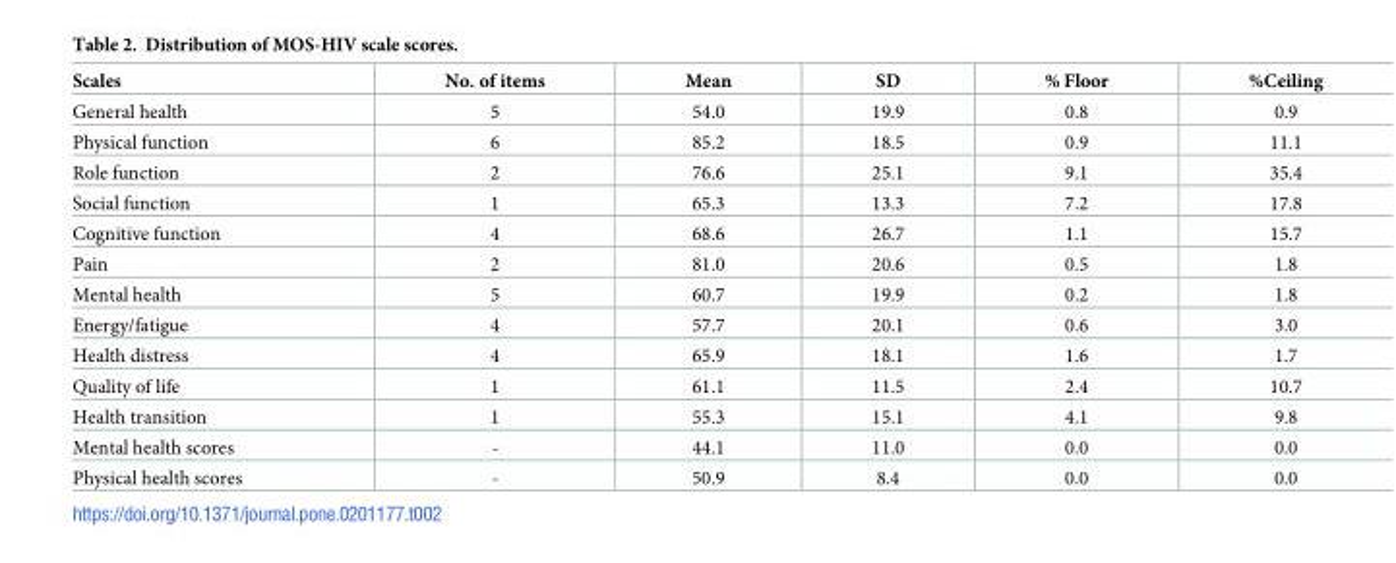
<table><thead><tr><td>Scales</td><td>No. of items</td><td>Mean</td><td>SD</td><td>% Floor</td><td>%Ceiling</td></tr></thead><tbody><tr><td>General health</td><td>5</td><td>54.0</td><td>19.9</td><td>0.8</td><td>0.9</td></tr><tr><td>Physical function</td><td>6</td><td>85.2</td><td>18.5</td><td>0.9</td><td>11.1</td></tr><tr><td>Role function</td><td>2</td><td>76.6</td><td>25.1</td><td>9.1</td><td>35.4</td></tr><tr><td>Social function</td><td>1</td><td>65.3</td><td>13.3</td><td>7.2</td><td>17.8</td></tr><tr><td>Cognitive function</td><td>4</td><td>68.6</td><td>26.7</td><td>1.1</td><td>15.7</td></tr><tr><td>Pain</td><td>2</td><td>81.0</td><td>20.6</td><td>0.5</td><td>1.8</td></tr><tr><td>Mental health</td><td>5</td><td>60.7</td><td>19.9</td><td>0.2</td><td>1.8</td></tr><tr><td>Energy/fatigue</td><td>4</td><td>57.7</td><td>20.1</td><td>0.6</td><td>3.0</td></tr><tr><td>Health distress</td><td>4</td><td>65.9</td><td>18.1</td><td>1.6</td><td>1.7</td></tr><tr><td>Quality of life</td><td>1</td><td>61.1</td><td>11.5</td><td>2.4</td><td>10.7</td></tr><tr><td>Health transition</td><td>1</td><td>55.3</td><td>15.1</td><td>4.1</td><td>9.8</td></tr><tr><td>Mental health scores</td><td>-</td><td>44.1</td><td>11.0</td><td>0.0</td><td>0.0</td></tr><tr><td>Physical health scores</td><td>-</td><td>50.9</td><td>8.4</td><td>0.0</td><td>0.0</td></tr></tbody></table>